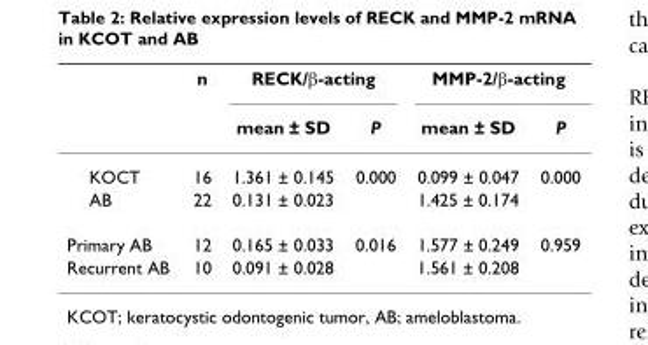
<table><thead><tr><td rowspan="2"></td><td rowspan="2">n</td><td colspan="2">RECK/β-acting</td><td colspan="2">MMP-2/β-acting</td></tr><tr><td>mean ± SD</td><td>P</td><td>mean ± SD</td><td>P</td></tr></thead><tbody><tr><td>KOCT</td><td>16</td><td>1.361 ± 0.145</td><td>0.000</td><td>0.099 ± 0.047</td><td>0.000</td></tr><tr><td>AB</td><td>22</td><td>0.131 ± 0.023</td><td></td><td>1.425 ± 0.174</td><td></td></tr><tr><td>Primary AB</td><td>12</td><td>0.165 ± 0.033</td><td>0.016</td><td>1.577 ± 0.249</td><td>0.959</td></tr><tr><td>Recurrent AB</td><td>10</td><td>0.091 ± 0.028</td><td></td><td>1.561 ± 0.208</td><td></td></tr></tbody></table>